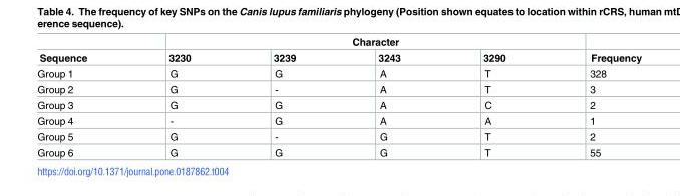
<table><thead><tr><td rowspan="2">Sequence</td><td colspan="4">Character</td><td rowspan="2">Frequency</td></tr><tr><td>3230</td><td>3239</td><td>3243</td><td>3290</td></tr></thead><tbody><tr><td>Group 1</td><td>G</td><td>G</td><td>A</td><td>T</td><td>328</td></tr><tr><td>Group 2</td><td>G</td><td>-</td><td>A</td><td>T</td><td>3</td></tr><tr><td>Group 3</td><td>G</td><td>G</td><td>A</td><td>C</td><td>2</td></tr><tr><td>Group 4</td><td>-</td><td>G</td><td>A</td><td>A</td><td>1</td></tr><tr><td>Group 5</td><td>G</td><td>-</td><td>G</td><td>T</td><td>2</td></tr><tr><td>Group 6</td><td>G</td><td>G</td><td>G</td><td>T</td><td>55</td></tr></tbody></table>